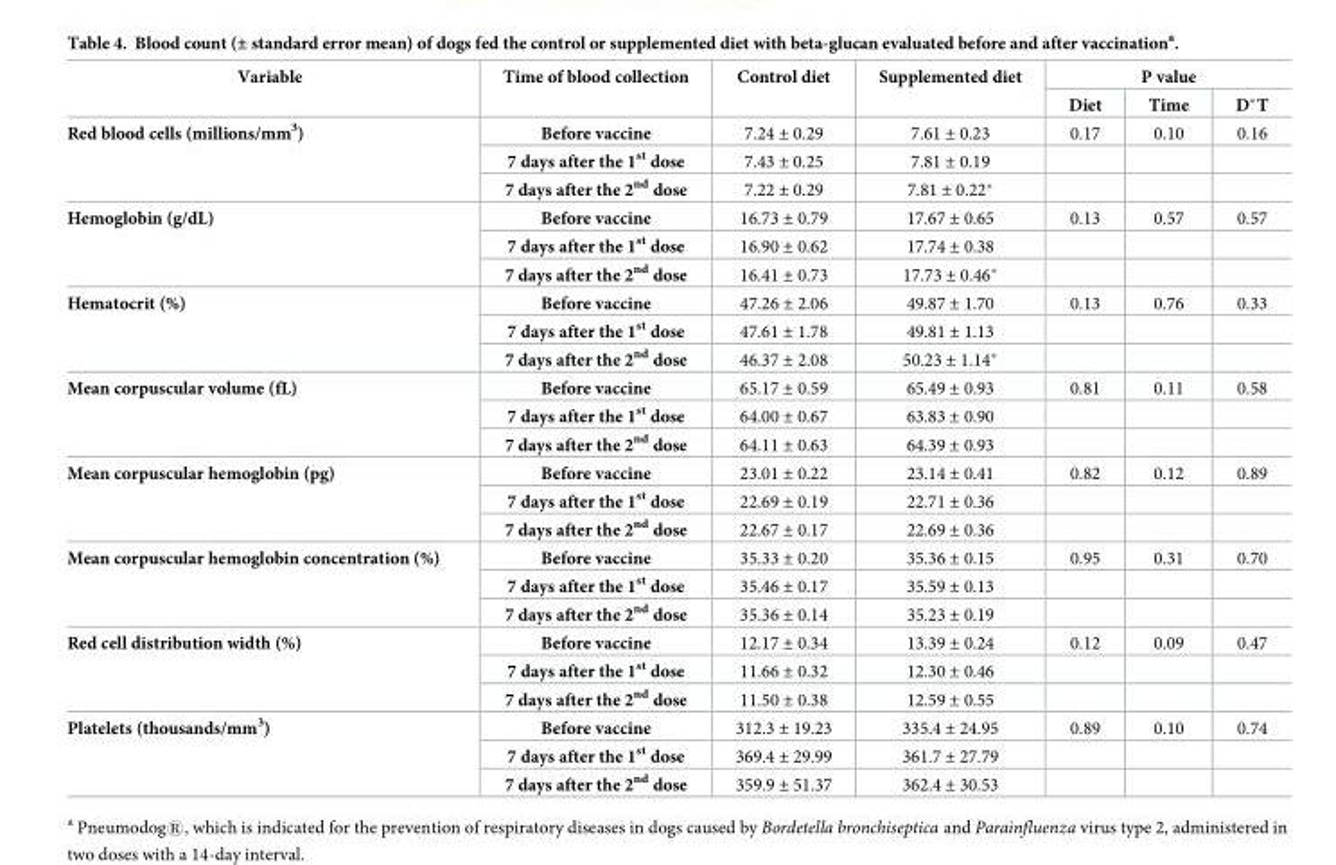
<table><thead><tr><td rowspan="2">Variable</td><td rowspan="2">Time of blood collection</td><td rowspan="2">Control diet</td><td rowspan="2">Supplemented diet</td><td colspan="3">P value</td></tr><tr><td>Diet</td><td>Time</td><td>D*T</td></tr></thead><tbody><tr><td rowspan="3">Red blood cells (millions/mm<sup>3</sup>)</td><td>Before vaccine</td><td>7.24 ± 0.29</td><td>7.61 ± 0.23</td><td>0.17</td><td>0.10</td><td>0.16</td></tr><tr><td>7 days after the 1<sup>st</sup> dose</td><td>7.43 ± 0.25</td><td>7.81 ± 0.19</td><td></td><td></td><td></td></tr><tr><td>7 days after the 2<sup>nd</sup> dose</td><td>7.22 ± 0.29</td><td>7.81 ± 0.22*</td><td></td><td></td><td></td></tr><tr><td rowspan="3">Hemoglobin (g/dL)</td><td>Before vaccine</td><td>16.73 ± 0.79</td><td>17.67 ± 0.65</td><td>0.13</td><td>0.57</td><td>0.57</td></tr><tr><td>7 days after the 1<sup>st</sup> dose</td><td>16.90 ± 0.62</td><td>17.74 ± 0.38</td><td></td><td></td><td></td></tr><tr><td>7 days after the 2<sup>nd</sup> dose</td><td>16.41 ± 0.73</td><td>17.73 ± 0.46*</td><td></td><td></td><td></td></tr><tr><td rowspan="3">Hematocrit (%)</td><td>Before vaccine</td><td>47.26 ± 2.06</td><td>49.87 ± 1.70</td><td>0.13</td><td>0.76</td><td>0.33</td></tr><tr><td>7 days after the 1<sup>st</sup> dose</td><td>47.61 ± 1.78</td><td>49.81 ± 1.13</td><td></td><td></td><td></td></tr><tr><td>7 days after the 2<sup>nd</sup> dose</td><td>46.37 ± 2.08</td><td>50.23 ± 1.14*</td><td></td><td></td><td></td></tr><tr><td rowspan="3">Mean corpuscular volume (fL)</td><td>Before vaccine</td><td>65.17 ± 0.59</td><td>65.49 ± 0.93</td><td>0.81</td><td>0.11</td><td>0.58</td></tr><tr><td>7 days after the 1<sup>st</sup> dose</td><td>64.00 ± 0.67</td><td>63.83 ± 0.90</td><td></td><td></td><td></td></tr><tr><td>7 days after the 2<sup>nd</sup> dose</td><td>64.11 ± 0.63</td><td>64.39 ± 0.93</td><td></td><td></td><td></td></tr><tr><td rowspan="3">Mean corpuscular hemoglobin (pg)</td><td>Before vaccine</td><td>23.01 ± 0.22</td><td>23.14 ± 0.41</td><td>0.82</td><td>0.12</td><td>0.89</td></tr><tr><td>7 days after the 1<sup>st</sup> dose</td><td>22.69 ± 0.19</td><td>22.71 ± 0.36</td><td></td><td></td><td></td></tr><tr><td>7 days after the 2<sup>nd</sup> dose</td><td>22.67 ± 0.17</td><td>22.69 ± 0.36</td><td></td><td></td><td></td></tr><tr><td rowspan="3">Mean corpuscular hemoglobin concentration (%)</td><td>Before vaccine</td><td>35.33 ± 0.20</td><td>35.36 ± 0.15</td><td>0.95</td><td>0.31</td><td>0.70</td></tr><tr><td>7 days after the 1<sup>st</sup> dose</td><td>35.46 ± 0.17</td><td>35.59 ± 0.13</td><td></td><td></td><td></td></tr><tr><td>7 days after the 2<sup>nd</sup> dose</td><td>35.36 ± 0.14</td><td>35.23 ± 0.19</td><td></td><td></td><td></td></tr><tr><td rowspan="3">Red cell distribution width (%)</td><td>Before vaccine</td><td>12.17 ± 0.34</td><td>13.39 ± 0.24</td><td>0.12</td><td>0.09</td><td>0.47</td></tr><tr><td>7 days after the 1<sup>st</sup> dose</td><td>11.66 ± 0.32</td><td>12.30 ± 0.46</td><td></td><td></td><td></td></tr><tr><td>7 days after the 2<sup>nd</sup> dose</td><td>11.50 ± 0.38</td><td>12.59 ± 0.55</td><td></td><td></td><td></td></tr><tr><td rowspan="3">Platelets (thousands/mm<sup>3</sup>)</td><td>Before vaccine</td><td>312.3 ± 19.23</td><td>335.4 ± 24.95</td><td>0.89</td><td>0.10</td><td>0.74</td></tr><tr><td>7 days after the 1<sup>st</sup> dose</td><td>369.4 ± 29.99</td><td>361.7 ± 27.79</td><td></td><td></td><td></td></tr><tr><td>7 days after the 2<sup>nd</sup> dose</td><td>359.9 ± 51.37</td><td>362.4 ± 30.53</td><td></td><td></td><td></td></tr></tbody></table>